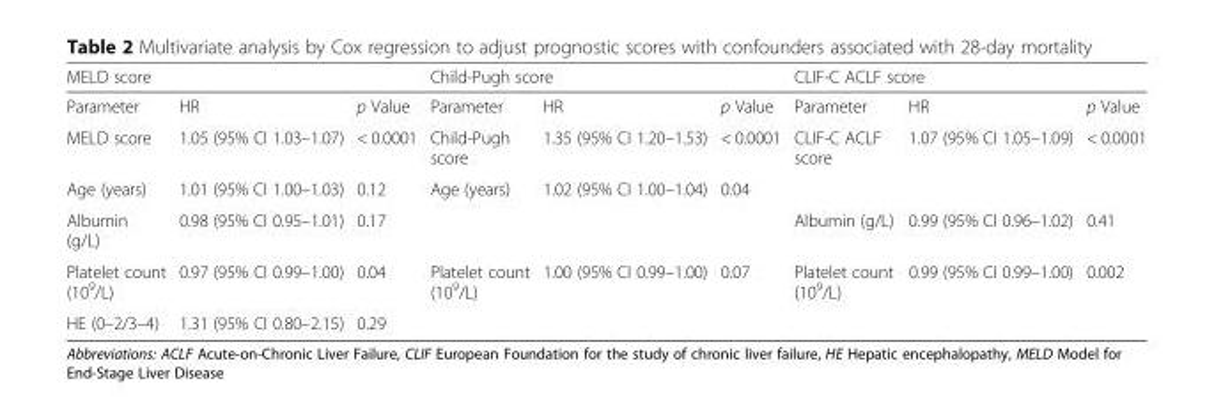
<table><thead><tr><td colspan="3">MELD score</td><td colspan="3">Child-Pugh score</td><td colspan="3">CLIF-C ACLF score</td></tr><tr><td>Parameter</td><td>HR</td><td>p Value</td><td>Parameter</td><td>HR</td><td>p Value</td><td>Parameter</td><td>HR</td><td>p Value</td></tr></thead><tbody><tr><td>MELD score</td><td>1.05 (95% CI 1.03–1.07)</td><td>&lt; 0.0001</td><td>Child-Pugh score</td><td>1.35 (95% CI 1.20–1.53)</td><td>&lt; 0.0001</td><td>CLIF-C ACLF score</td><td>1.07 (95% CI 1.05–1.09)</td><td>&lt; 0.0001</td></tr><tr><td>Age (years)</td><td>1.01 (95% CI 1.00–1.03)</td><td>0.12</td><td>Age (years)</td><td>1.02 (95% CI 1.00–1.04)</td><td>0.04</td><td></td><td></td><td></td></tr><tr><td>Albumin (g/L)</td><td>0.98 (95% CI 0.95–1.01)</td><td>0.17</td><td></td><td></td><td></td><td>Albumin (g/L)</td><td>0.99 (95% CI 0.96–1.02)</td><td>0.41</td></tr><tr><td>Platelet count (10<sup>9</sup>/L)</td><td>0.97 (95% CI 0.99–1.00)</td><td>0.04</td><td>Platelet count (10<sup>9</sup>/L)</td><td>1.00 (95% CI 0.99–1.00)</td><td>0.07</td><td>Platelet count (10<sup>9</sup>/L)</td><td>0.99 (95% CI 0.99–1.00)</td><td>0.002</td></tr><tr><td>HE (0–2/3–4)</td><td>1.31 (95% CI 0.80–2.15)</td><td>0.29</td><td></td><td></td><td></td><td></td><td></td><td></td></tr></tbody></table>